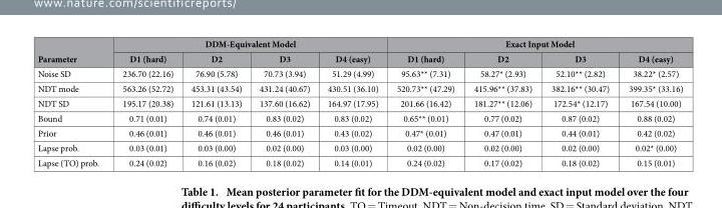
<table><thead><tr><td rowspan="2">Parameter</td><td colspan="4">DDM-Equivalent Model</td><td colspan="4">Exact Input Model</td></tr><tr><td>D1 (hard)</td><td>D2</td><td>D3</td><td>D4 (easy)</td><td>D1 (hard)</td><td>D2</td><td>D3</td><td>D4 (easy)</td></tr></thead><tbody><tr><td>Noise SD</td><td>236.70 (22.16)</td><td>76.90 (5.78)</td><td>70.73 (3.94)</td><td>51.29 (4.99)</td><td>95.63** (7.31)</td><td>58.27* (2.93)</td><td>52.10** (2.82)</td><td>38.22* (2.57)</td></tr><tr><td>NDT mode</td><td>563.26 (52.72)</td><td>453.31 (43.54)</td><td>431.24 (40.67)</td><td>430.51 (36.10)</td><td>520.73** (47.29)</td><td>415.96** (37.83)</td><td>382.16** (30.47)</td><td>399.35* (33.16)</td></tr><tr><td>NDT SD</td><td>195.17 (20.38)</td><td>121.61 (13.13)</td><td>137.60 (16.62)</td><td>164.97 (17.95)</td><td>201.66 (16.42)</td><td>181.27** (12.06)</td><td>172.54* (12.17)</td><td>167.54 (10.00)</td></tr><tr><td>Bound</td><td>0.71 (0.01)</td><td>0.74 (0.01)</td><td>0.83 (0.02)</td><td>0.83 (0.02)</td><td>0.65** (0.01)</td><td>0.77 (0.02)</td><td>0.87 (0.02)</td><td>0.88 (0.02)</td></tr><tr><td>Prior</td><td>0.46 (0.01)</td><td>0.46 (0.01)</td><td>0.46 (0.01)</td><td>0.43 (0.02)</td><td>0.47* (0.01)</td><td>0.47 (0.01)</td><td>0.44 (0.01)</td><td>0.42 (0.02)</td></tr><tr><td>Lapse prob.</td><td>0.03 (0.01)</td><td>0.03 (0.00)</td><td>0.02 (0.00)</td><td>0.03 (0.00)</td><td>0.02 (0.00)</td><td>0.02 (0.00)</td><td>0.02 (0.00)</td><td>0.02* (0.00)</td></tr><tr><td>Lapse (TO) prob.</td><td>0.24 (0.02)</td><td>0.16 (0.02)</td><td>0.18 (0.02)</td><td>0.14 (0.01)</td><td>0.24 (0.02)</td><td>0.17 (0.02)</td><td>0.18 (0.02)</td><td>0.15 (0.01)</td></tr></tbody></table>